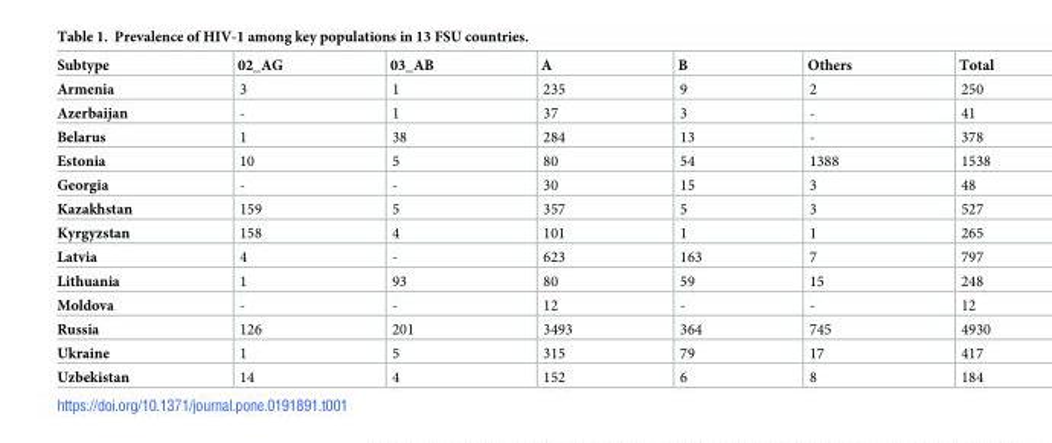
<table><thead><tr><td>Subtype</td><td>02_AG</td><td>03_AB</td><td>A</td><td>B</td><td>Others</td><td>Total</td></tr></thead><tbody><tr><td>Armenia</td><td>3</td><td>1</td><td>235</td><td>9</td><td>2</td><td>250</td></tr><tr><td>Azerbaijan</td><td>-</td><td>1</td><td>37</td><td>3</td><td>-</td><td>41</td></tr><tr><td>Belarus</td><td>1</td><td>38</td><td>284</td><td>13</td><td>-</td><td>378</td></tr><tr><td>Estonia</td><td>10</td><td>5</td><td>80</td><td>54</td><td>1388</td><td>1538</td></tr><tr><td>Georgia</td><td>-</td><td>-</td><td>30</td><td>15</td><td>3</td><td>48</td></tr><tr><td>Kazakhstan</td><td>159</td><td>5</td><td>357</td><td>5</td><td>3</td><td>527</td></tr><tr><td>Kyrgyzstan</td><td>158</td><td>4</td><td>101</td><td>1</td><td>1</td><td>265</td></tr><tr><td>Latvia</td><td>4</td><td>-</td><td>623</td><td>163</td><td>7</td><td>797</td></tr><tr><td>Lithuania</td><td>1</td><td>93</td><td>80</td><td>59</td><td>15</td><td>248</td></tr><tr><td>Moldova</td><td>-</td><td>-</td><td>12</td><td>-</td><td>-</td><td>12</td></tr><tr><td>Russia</td><td>126</td><td>201</td><td>3493</td><td>364</td><td>745</td><td>4930</td></tr><tr><td>Ukraine</td><td>1</td><td>5</td><td>315</td><td>79</td><td>17</td><td>417</td></tr><tr><td>Uzbekistan</td><td>14</td><td>4</td><td>152</td><td>6</td><td>8</td><td>184</td></tr></tbody></table>